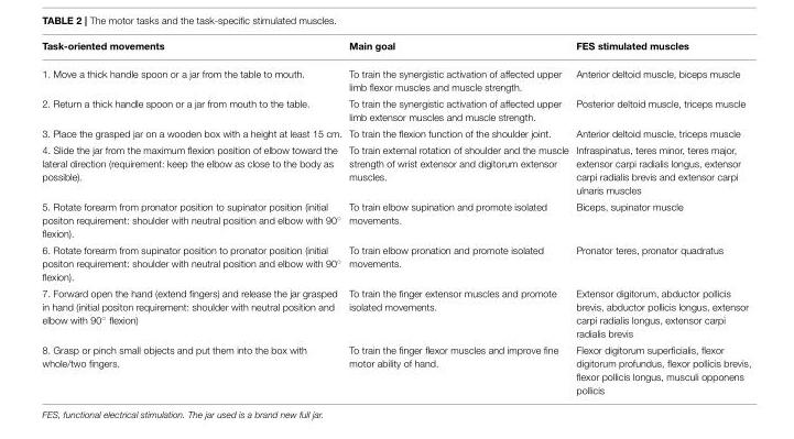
<table><thead><tr><td>Task-oriented movements</td><td>Main goal</td><td>FES stimulated muscles</td></tr></thead><tbody><tr><td>1. Move a thick handle spoon or a jar from the table to mouth.</td><td>To train the synergistic activation of affected upper limb flexor muscles and muscle strength.</td><td>Anterior deltoid muscle, biceps muscle</td></tr><tr><td>2. Return a thick handle spoon or a jar from mouth to the table.</td><td>To train the synergistic activation of affected upper limb extensor muscles and muscle strength.</td><td>Posterior deltoid muscle, triceps muscle</td></tr><tr><td>3. Place the grasped jar on a wooden box with a height at least 15 cm.</td><td>To train the flexion function of the shoulder joint.</td><td>Anterior deltoid muscle, triceps muscle</td></tr><tr><td>4. Slide the jar from the maximum flexion position of elbow toward the lateral direction (requirement: keep the elbow as close to the body as possible).</td><td>To train external rotation of shoulder and the muscle strength of wrist extensor and digitorum extensor muscles.</td><td>Infraspinatus, teres minor, teres major, extensor carpi radialis longus, extensor carpi radialis brevis and extensor carpi ulnaris muscles</td></tr><tr><td>5. Rotate forearm from pronator position to supinator position (initial positon requirement: shoulder with neutral position and elbow with 90◦ flexion).</td><td>To train elbow supination and promote isolated movements.</td><td>Biceps, supinator muscle</td></tr><tr><td>6. Rotate forearm from supinator position to pronator position (initial positon requirement: shoulder with neutral position and elbow with 90◦ flexion).</td><td>To train elbow pronation and promote isolated movements.</td><td>Pronator teres, pronator quadratus</td></tr><tr><td>7. Forward open the hand (extend fingers) and release the jar grasped in hand (initial positon requirement: shoulder with neutral position and elbow with 90◦ flexion)</td><td>To train the finger extensor muscles and promote isolated movements.</td><td>Extensor digitorum, abductor pollicis brevis, abductor pollicis longus, extensor carpi radialis longus, extensor carpi radialis brevis</td></tr><tr><td>8. Grasp or pinch small objects and put them into the box with whole/two fingers.</td><td>To train the finger flexor muscles and improve fine motor ability of hand.</td><td>Flexor digitorum superficialis, flexor digitorum profundus, flexor pollicis brevis, flexor pollicis longus, musculi opponens pollicis</td></tr></tbody></table>